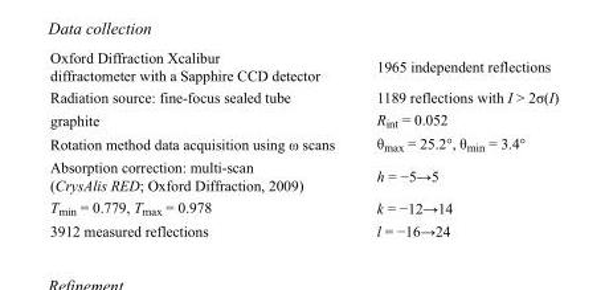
<table><tbody><tr><td>Oxford Diffraction Xcalibur diffractometer with a Sapphire CCD detector</td><td>1965 independent reflections</td></tr><tr><td>Radiation source: fine-focus sealed tube</td><td>1189 reflections with I &gt; 2σ(I)</td></tr><tr><td>graphite</td><td>R<sub>int</sub> = 0.052</td></tr><tr><td>Rotation method data acquisition using ω scans</td><td>θ<sub>max</sub> = 25.2°, θ<sub>min</sub> = 3.4°</td></tr><tr><td>Absorption correction: multi-scan (CrysAlis RED; Oxford Diffraction, 2009)</td><td>h = −5→5</td></tr><tr><td>T<sub>min</sub> = 0.779, T<sub>max</sub> = 0.978</td><td>k = −12→14</td></tr><tr><td>3912 measured reflections</td><td>l = −16→24</td></tr></tbody></table>